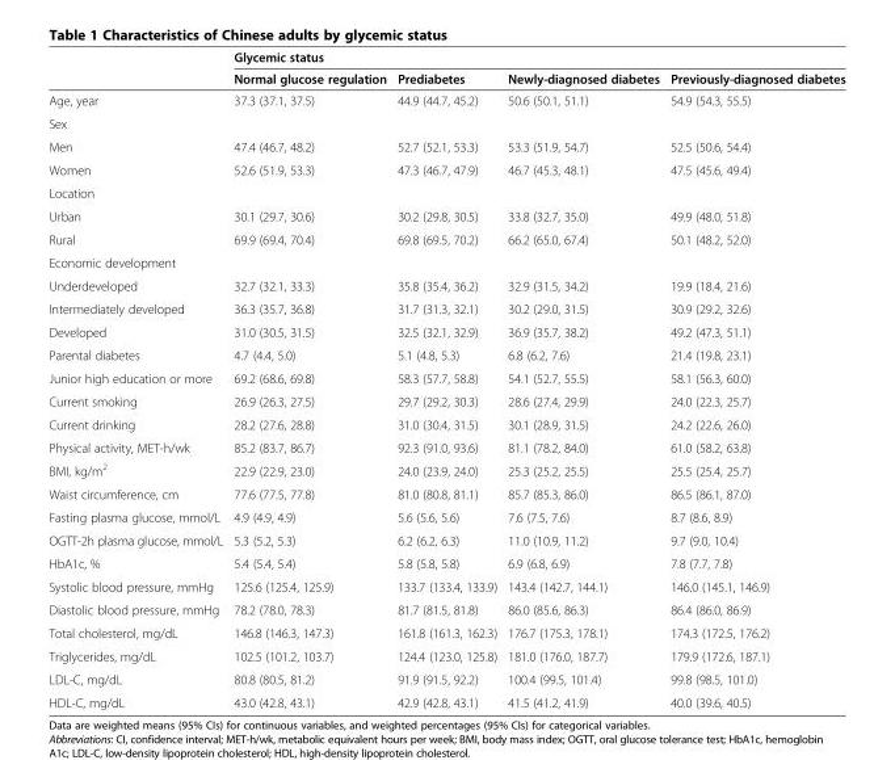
<table><thead><tr><td rowspan="2"></td><td colspan="4">Glycemic status</td></tr><tr><td>Normal glucose regulation</td><td>Prediabetes</td><td>Newly-diagnosed diabetes</td><td>Previously-diagnosed diabetes</td></tr></thead><tbody><tr><td>Age, year</td><td>37.3 (37.1, 37.5)</td><td>44.9 (44.7, 45.2)</td><td>50.6 (50.1, 51.1)</td><td>54.9 (54.3, 55.5)</td></tr><tr><td colspan="5">Sex</td></tr><tr><td>Men</td><td>47.4 (46.7, 48.2)</td><td>52.7 (52.1, 53.3)</td><td>53.3 (51.9, 54.7)</td><td>52.5 (50.6, 54.4)</td></tr><tr><td>Women</td><td>52.6 (51.9, 53.3)</td><td>47.3 (46.7, 47.9)</td><td>46.7 (45.3, 48.1)</td><td>47.5 (45.6, 49.4)</td></tr><tr><td colspan="5">Location</td></tr><tr><td>Urban</td><td>30.1 (29.7, 30.6)</td><td>30.2 (29.8, 30.5)</td><td>33.8 (32.7, 35.0)</td><td>49.9 (48.0, 51.8)</td></tr><tr><td>Rural</td><td>69.9 (69.4, 70.4)</td><td>69.8 (69.5, 70.2)</td><td>66.2 (65.0, 67.4)</td><td>50.1 (48.2, 52.0)</td></tr><tr><td colspan="5">Economic development</td></tr><tr><td>Underdeveloped</td><td>32.7 (32.1, 33.3)</td><td>35.8 (35.4, 36.2)</td><td>32.9 (31.5, 34.2)</td><td>19.9 (18.4, 21.6)</td></tr><tr><td>Intermediately developed</td><td>36.3 (35.7, 36.8)</td><td>31.7 (31.3, 32.1)</td><td>30.2 (29.0, 31.5)</td><td>30.9 (29.2, 32.6)</td></tr><tr><td>Developed</td><td>31.0 (30.5, 31.5)</td><td>32.5 (32.1, 32.9)</td><td>36.9 (35.7, 38.2)</td><td>49.2 (47.3, 51.1)</td></tr><tr><td>Parental diabetes</td><td>4.7 (4.4, 5.0)</td><td>5.1 (4.8, 5.3)</td><td>6.8 (6.2, 7.6)</td><td>21.4 (19.8, 23.1)</td></tr><tr><td>Junior high education or more</td><td>69.2 (68.6, 69.8)</td><td>58.3 (57.7, 58.8)</td><td>54.1 (52.7, 55.5)</td><td>58.1 (56.3, 60.0)</td></tr><tr><td>Current smoking</td><td>26.9 (26.3, 27.5)</td><td>29.7 (29.2, 30.3)</td><td>28.6 (27.4, 29.9)</td><td>24.0 (22.3, 25.7)</td></tr><tr><td>Current drinking</td><td>28.2 (27.6, 28.8)</td><td>31.0 (30.4, 31.5)</td><td>30.1 (28.9, 31.5)</td><td>24.2 (22.6, 26.0)</td></tr><tr><td>Physical activity, MET-h/wk</td><td>85.2 (83.7, 86.7)</td><td>92.3 (91.0, 93.6)</td><td>81.1 (78.2, 84.0)</td><td>61.0 (58.2, 63.8)</td></tr><tr><td>BMI, kg/m<sup>2</sup></td><td>22.9 (22.9, 23.0)</td><td>24.0 (23.9, 24.0)</td><td>25.3 (25.2, 25.5)</td><td>25.5 (25.4, 25.7)</td></tr><tr><td>Waist circumference, cm</td><td>77.6 (77.5, 77.8)</td><td>81.0 (80.8, 81.1)</td><td>85.7 (85.3, 86.0)</td><td>86.5 (86.1, 87.0)</td></tr><tr><td>Fasting plasma glucose, mmol/L</td><td>4.9 (4.9, 4.9)</td><td>5.6 (5.6, 5.6)</td><td>7.6 (7.5, 7.6)</td><td>8.7 (8.6, 8.9)</td></tr><tr><td>OGTT-2h plasma glucose, mmol/L</td><td>5.3 (5.2, 5.3)</td><td>6.2 (6.2, 6.3)</td><td>11.0 (10.9, 11.2)</td><td>9.7 (9.0, 10.4)</td></tr><tr><td>HbA1c, %</td><td>5.4 (5.4, 5.4)</td><td>5.8 (5.8, 5.8)</td><td>6.9 (6.8, 6.9)</td><td>7.8 (7.7, 7.8)</td></tr><tr><td>Systolic blood pressure, mmHg</td><td>125.6 (125.4, 125.9)</td><td>133.7 (133.4, 133.9)</td><td>143.4 (142.7, 144.1)</td><td>146.0 (145.1, 146.9)</td></tr><tr><td>Diastolic blood pressure, mmHg</td><td>78.2 (78.0, 78.3)</td><td>81.7 (81.5, 81.8)</td><td>86.0 (85.6, 86.3)</td><td>86.4 (86.0, 86.9)</td></tr><tr><td>Total cholesterol, mg/dL</td><td>146.8 (146.3, 147.3)</td><td>161.8 (161.3, 162.3)</td><td>176.7 (175.3, 178.1)</td><td>174.3 (172.5, 176.2)</td></tr><tr><td>Triglycerides, mg/dL</td><td>102.5 (101.2, 103.7)</td><td>124.4 (123.0, 125.8)</td><td>181.0 (176.0, 187.7)</td><td>179.9 (172.6, 187.1)</td></tr><tr><td>LDL-C, mg/dL</td><td>80.8 (80.5, 81.2)</td><td>91.9 (91.5, 92.2)</td><td>100.4 (99.5, 101.4)</td><td>99.8 (98.5, 101.0)</td></tr><tr><td>HDL-C, mg/dL</td><td>43.0 (42.8, 43.1)</td><td>42.9 (42.8, 43.1)</td><td>41.5 (41.2, 41.9)</td><td>40.0 (39.6, 40.5)</td></tr></tbody></table>